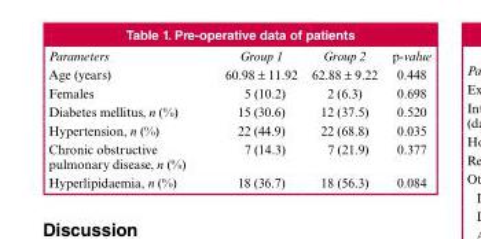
<table><thead><tr><td>Parameters</td><td>Group 1</td><td>Group 2</td><td>p-value</td></tr></thead><tbody><tr><td>Age (years)</td><td>60.98 ± 11.92</td><td>62.88 ± 9.22</td><td>0.448</td></tr><tr><td>Females</td><td>5 (10.2)</td><td>2 (6.3)</td><td>0.698</td></tr><tr><td>Diabetes mellitus, n (%)</td><td>15 (30.6)</td><td>12 (37.5)</td><td>0.520</td></tr><tr><td>Hypertension, n (%)</td><td>22 (44.9)</td><td>22 (68.8)</td><td>0.035</td></tr><tr><td>Chronic obstructive pulmonary disease, n (%)</td><td>7 (14.3)</td><td>7 (21.9)</td><td>0.377</td></tr><tr><td>Hyperlipidaemia, n (%)</td><td>18 (36.7)</td><td>18 (56.3)</td><td>0.084</td></tr></tbody></table>